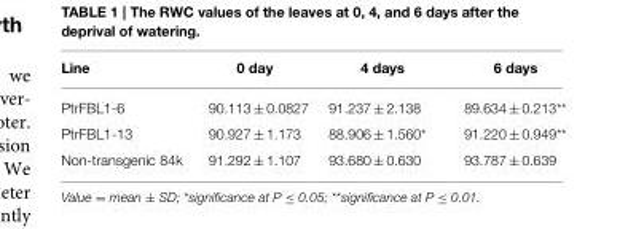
<table><thead><tr><td>Line</td><td>0 day</td><td>4 days</td><td>6 days</td></tr></thead><tbody><tr><td>PtrFBL1-6</td><td>90.113 ± 0.0827</td><td>91.237 ± 2.138</td><td>89.634 ± 0.213**</td></tr><tr><td>PtrFBL1-13</td><td>90.927 ± 1.173</td><td>88.906 ± 1.560*</td><td>91.220 ± 0.949**</td></tr><tr><td>Non-transgenic 84k</td><td>91.292 ± 1.107</td><td>93.680 ± 0.630</td><td>93.787 ± 0.639</td></tr></tbody></table>